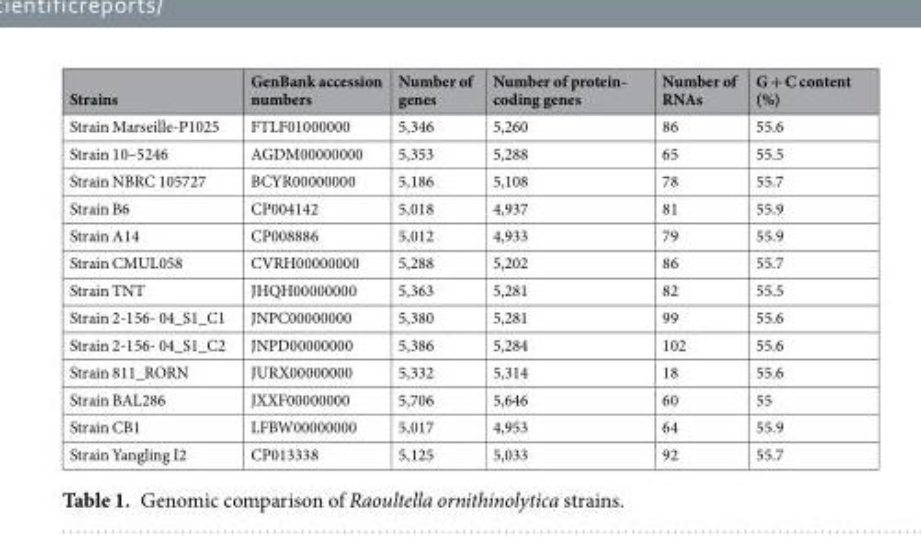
<table><thead><tr><td>Strains</td><td>GenBank accession numbers</td><td>Number of genes</td><td>Number of protein- coding genes</td><td>Number of RNAs</td><td>G + C content (%)</td></tr></thead><tbody><tr><td>Strain Marseille-P1025</td><td>FTLF01000000</td><td>5,346</td><td>5,260</td><td>86</td><td>55.6</td></tr><tr><td>Strain 10–5246</td><td>AGDM00000000</td><td>5,353</td><td>5,288</td><td>65</td><td>55.5</td></tr><tr><td>Strain NBRC 105727</td><td>BCYR00000000</td><td>5,186</td><td>5,108</td><td>78</td><td>55.7</td></tr><tr><td>Strain B6</td><td>CP004142</td><td>5,018</td><td>4,937</td><td>81</td><td>55.9</td></tr><tr><td>Strain A14</td><td>CP008886</td><td>5,012</td><td>4,933</td><td>79</td><td>55.9</td></tr><tr><td>Strain CMUL058</td><td>CVRH00000000</td><td>5,288</td><td>5,202</td><td>86</td><td>55.7</td></tr><tr><td>Strain TNT</td><td>JHQH00000000</td><td>5,363</td><td>5,281</td><td>82</td><td>55.5</td></tr><tr><td>Strain 2-156- 04_S1_C1</td><td>JNPC00000000</td><td>5,380</td><td>5,281</td><td>99</td><td>55.6</td></tr><tr><td>Strain 2-156- 04_S1_C2</td><td>JNPD00000000</td><td>5,386</td><td>5,284</td><td>102</td><td>55.6</td></tr><tr><td>Strain 811_RORN</td><td>JURX00000000</td><td>5,332</td><td>5,314</td><td>18</td><td>55.6</td></tr><tr><td>Strain BAL286</td><td>JXXF00000000</td><td>5,706</td><td>5,646</td><td>60</td><td>55</td></tr><tr><td>Strain CB1</td><td>LFBW00000000</td><td>5,017</td><td>4,953</td><td>64</td><td>55.9</td></tr><tr><td>Strain Yangling I2</td><td>CP013338</td><td>5,125</td><td>5,033</td><td>92</td><td>55.7</td></tr></tbody></table>